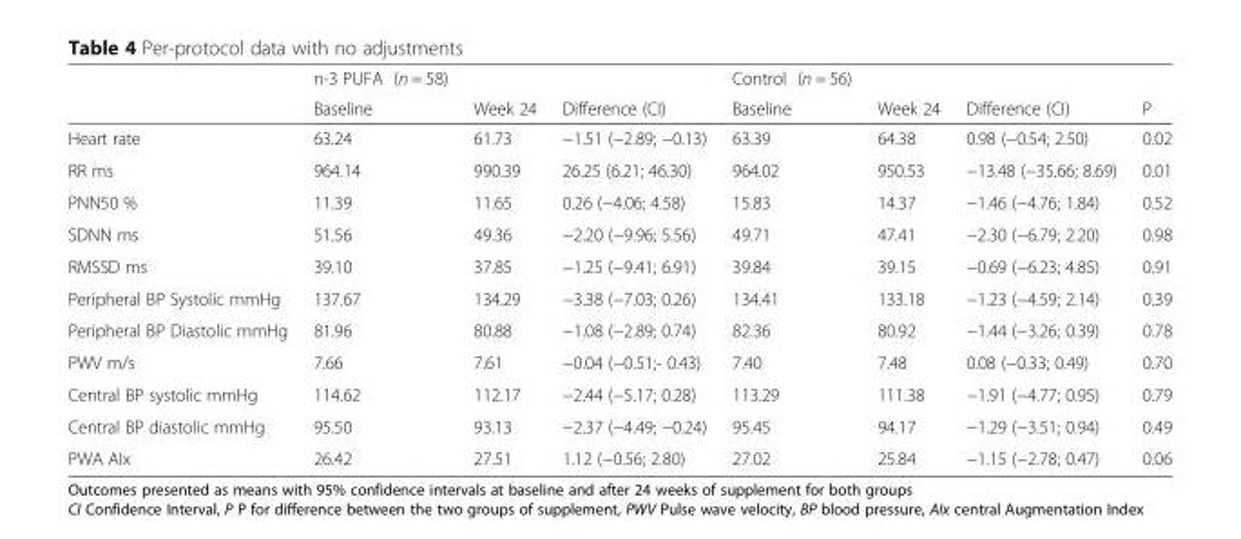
<table><thead><tr><td rowspan="2"></td><td rowspan="2">n-3 PUFA (n = 58) Baseline</td><td rowspan="2">Week 24</td><td rowspan="2">Difference (CI)</td><td rowspan="2">Control (n = 56) Baseline</td><td rowspan="2">Week 24</td><td rowspan="2">Difference (CI)</td><td rowspan="2">P</td></tr><tr></tr></thead><tbody><tr><td>Heart rate</td><td>63.24</td><td>61.73</td><td>−1.51 (−2.89; −0.13)</td><td>63.39</td><td>64.38</td><td>0.98 (−0.54; 2.50)</td><td>0.02</td></tr><tr><td>RR ms</td><td>964.14</td><td>990.39</td><td>26.25 (6.21; 46.30)</td><td>964.02</td><td>950.53</td><td>−13.48 (−35.66; 8.69)</td><td>0.01</td></tr><tr><td>PNN50 %</td><td>11.39</td><td>11.65</td><td>0.26 (−4.06; 4.58)</td><td>15.83</td><td>14.37</td><td>−1.46 (−4.76; 1.84)</td><td>0.52</td></tr><tr><td>SDNN ms</td><td>51.56</td><td>49.36</td><td>−2.20 (−9.96; 5.56)</td><td>49.71</td><td>47.41</td><td>−2.30 (−6.79; 2.20)</td><td>0.98</td></tr><tr><td>RMSSD ms</td><td>39.10</td><td>37.85</td><td>−1.25 (−9.41; 6.91)</td><td>39.84</td><td>39.15</td><td>−0.69 (−6.23; 4.85)</td><td>0.91</td></tr><tr><td>Peripheral BP Systolic mmHg</td><td>137.67</td><td>134.29</td><td>−3.38 (−7.03; 0.26)</td><td>134.41</td><td>133.18</td><td>−1.23 (−4.59; 2.14)</td><td>0.39</td></tr><tr><td>Peripheral BP Diastolic mmHg</td><td>81.96</td><td>80.88</td><td>−1.08 (−2.89; 0.74)</td><td>82.36</td><td>80.92</td><td>−1.44 (−3.26; 0.39)</td><td>0.78</td></tr><tr><td>PWV m/s</td><td>7.66</td><td>7.61</td><td>−0.04 (−0.51;- 0.43)</td><td>7.40</td><td>7.48</td><td>0.08 (−0.33; 0.49)</td><td>0.70</td></tr><tr><td>Central BP systolic mmHg</td><td>114.62</td><td>112.17</td><td>−2.44 (−5.17; 0.28)</td><td>113.29</td><td>111.38</td><td>−1.91 (−4.77; 0.95)</td><td>0.79</td></tr><tr><td>Central BP diastolic mmHg</td><td>95.50</td><td>93.13</td><td>−2.37 (−4.49; −0.24)</td><td>95.45</td><td>94.17</td><td>−1.29 (−3.51; 0.94)</td><td>0.49</td></tr><tr><td>PWA AIx</td><td>26.42</td><td>27.51</td><td>1.12 (−0.56; 2.80)</td><td>27.02</td><td>25.84</td><td>−1.15 (−2.78; 0.47)</td><td>0.06</td></tr></tbody></table>